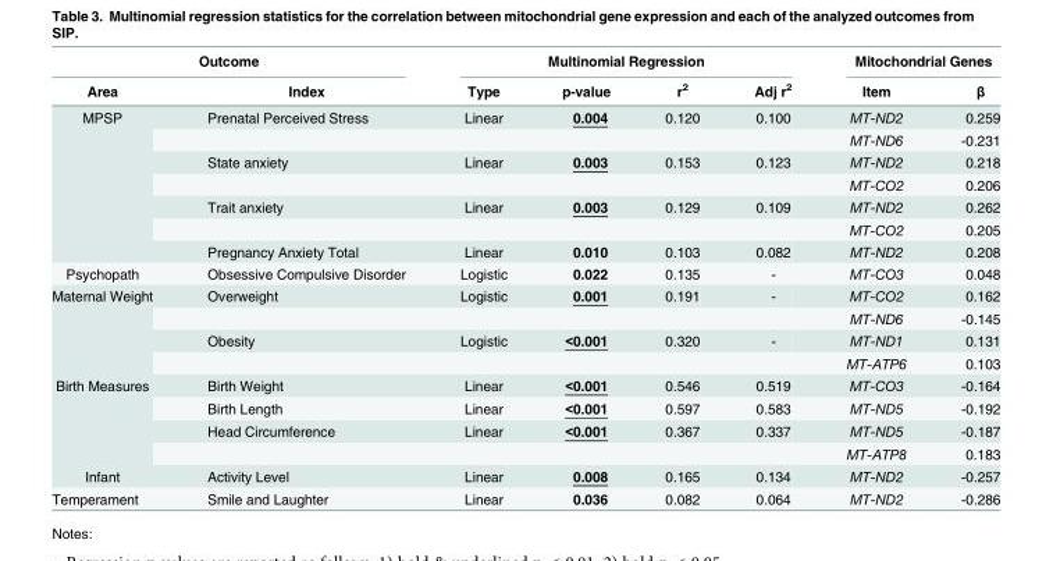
<table><thead><tr><td colspan="2">Outcome</td><td colspan="4">Multinomial Regression</td><td colspan="2">Mitochondrial Genes</td></tr><tr><td>Area</td><td>Index</td><td>Type</td><td>p-value</td><td>r<sup>2</sup></td><td>Adj r<sup>2</sup></td><td>Item</td><td>β</td></tr></thead><tbody><tr><td rowspan="7">MPSP</td><td>Prenatal Perceived Stress</td><td>Linear</td><td>0.004</td><td>0.120</td><td>0.100</td><td>MT-ND2</td><td>0.259</td></tr><tr><td></td><td></td><td></td><td></td><td></td><td>MT-ND6</td><td>-0.231</td></tr><tr><td>State anxiety</td><td>Linear</td><td>0.003</td><td>0.153</td><td>0.123</td><td>MT-ND2</td><td>0.218</td></tr><tr><td></td><td></td><td></td><td></td><td></td><td>MT-CO2</td><td>0.206</td></tr><tr><td>Trait anxiety</td><td>Linear</td><td>0.003</td><td>0.129</td><td>0.109</td><td>MT-ND2</td><td>0.262</td></tr><tr><td></td><td></td><td></td><td></td><td></td><td>MT-CO2</td><td>0.205</td></tr><tr><td>Pregnancy Anxiety Total</td><td>Linear</td><td>0.010</td><td>0.103</td><td>0.082</td><td>MT-ND2</td><td>0.208</td></tr><tr><td>Psychopath</td><td>Obsessive Compulsive Disorder</td><td>Logistic</td><td>0.022</td><td>0.135</td><td>-</td><td>MT-CO3</td><td>0.048</td></tr><tr><td rowspan="4">Maternal Weight</td><td>Overweight</td><td>Logistic</td><td>0.001</td><td>0.191</td><td>-</td><td>MT-CO2</td><td>0.162</td></tr><tr><td></td><td></td><td></td><td></td><td></td><td>MT-ND6</td><td>-0.145</td></tr><tr><td>Obesity</td><td>Logistic</td><td>&lt;0.001</td><td>0.320</td><td>-</td><td>MT-ND1</td><td>0.131</td></tr><tr><td></td><td></td><td></td><td></td><td></td><td>MT-ATP6</td><td>0.103</td></tr><tr><td rowspan="4">Birth Measures</td><td>Birth Weight</td><td>Linear</td><td>&lt;0.001</td><td>0.546</td><td>0.519</td><td>MT-CO3</td><td>-0.164</td></tr><tr><td>Birth Length</td><td>Linear</td><td>&lt;0.001</td><td>0.597</td><td>0.583</td><td>MT-ND5</td><td>-0.192</td></tr><tr><td>Head Circumference</td><td>Linear</td><td>&lt;0.001</td><td>0.367</td><td>0.337</td><td>MT-ND5</td><td>-0.187</td></tr><tr><td></td><td></td><td></td><td></td><td></td><td>MT-ATP8</td><td>0.183</td></tr><tr><td>Infant</td><td>Activity Level</td><td>Linear</td><td>0.008</td><td>0.165</td><td>0.134</td><td>MT-ND2</td><td>-0.257</td></tr><tr><td>Temperament</td><td>Smile and Laughter</td><td>Linear</td><td>0.036</td><td>0.082</td><td>0.064</td><td>MT-ND2</td><td>-0.286</td></tr></tbody></table>